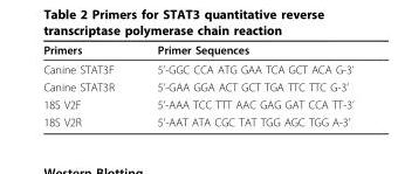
<table><thead><tr><td>Primers</td><td>Primer Sequences</td></tr></thead><tbody><tr><td>Canine STAT3F</td><td>5’-GGC CCA ATG GAA TCA GCT ACA G-3’</td></tr><tr><td>Canine STAT3R</td><td>5’-GAA GGA ACT GCT TGA TTC TTC G-3’</td></tr><tr><td>18S V2F</td><td>5’-AAA TCC TTT AAC GAG GAT CCA TT-3’</td></tr><tr><td>18S V2R</td><td>5’-AAT ATA CGC TAT TGG AGC TGG A-3’</td></tr></tbody></table>